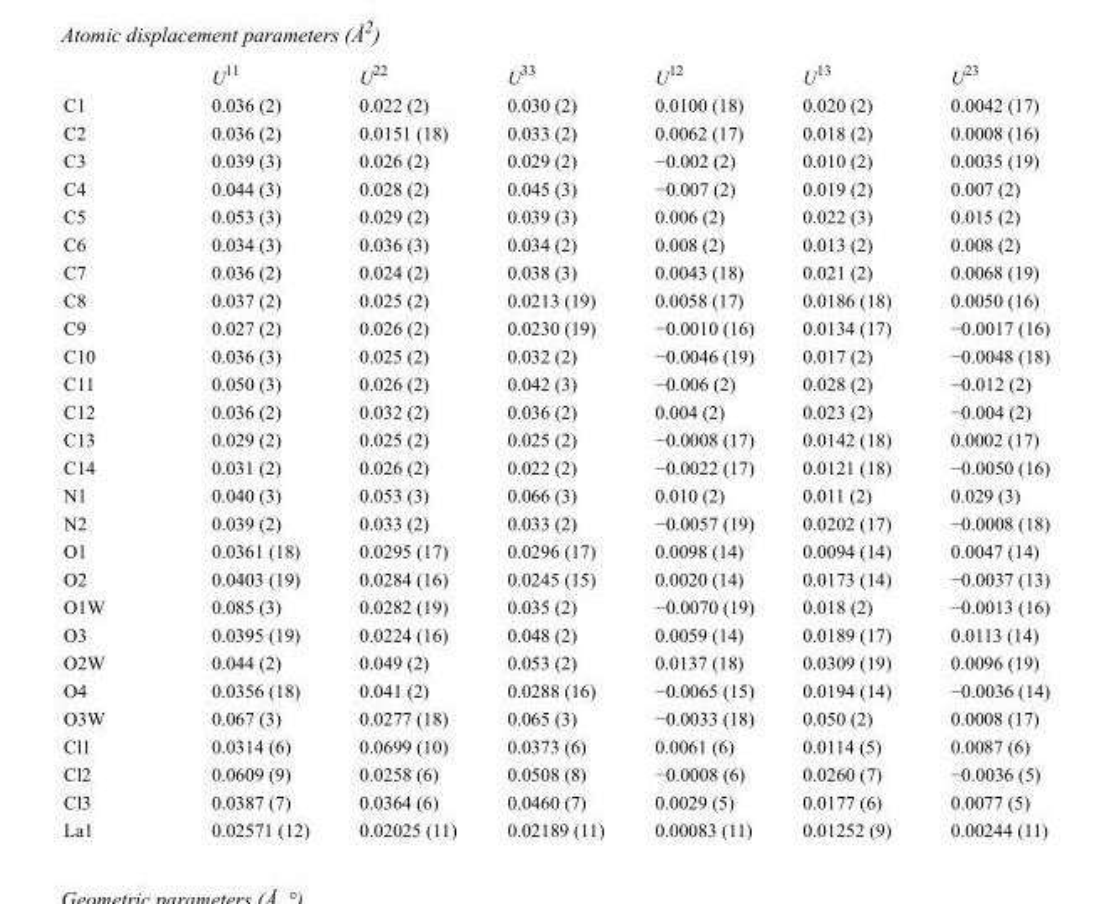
<table><thead><tr><td></td><td>U<sup>11</sup></td><td>U<sup>22</sup></td><td>U<sup>33</sup></td><td>U<sup>12</sup></td><td>U<sup>13</sup></td><td>U<sup>23</sup></td></tr></thead><tbody><tr><td>C1</td><td>0.036 (2)</td><td>0.022 (2)</td><td>0.030 (2)</td><td>0.0100 (18)</td><td>0.020 (2)</td><td>0.0042 (17)</td></tr><tr><td>C2</td><td>0.036 (2)</td><td>0.0151 (18)</td><td>0.033 (2)</td><td>0.0062 (17)</td><td>0.018 (2)</td><td>0.0008 (16)</td></tr><tr><td>C3</td><td>0.039 (3)</td><td>0.026 (2)</td><td>0.029 (2)</td><td>−0.002 (2)</td><td>0.010 (2)</td><td>0.0035 (19)</td></tr><tr><td>C4</td><td>0.044 (3)</td><td>0.028 (2)</td><td>0.045 (3)</td><td>−0.007 (2)</td><td>0.019 (2)</td><td>0.007 (2)</td></tr><tr><td>C5</td><td>0.053 (3)</td><td>0.029 (2)</td><td>0.039 (3)</td><td>0.006 (2)</td><td>0.022 (3)</td><td>0.015 (2)</td></tr><tr><td>C6</td><td>0.034 (3)</td><td>0.036 (3)</td><td>0.034 (2)</td><td>0.008 (2)</td><td>0.013 (2)</td><td>0.008 (2)</td></tr><tr><td>C7</td><td>0.036 (2)</td><td>0.024 (2)</td><td>0.038 (3)</td><td>0.0043 (18)</td><td>0.021 (2)</td><td>0.0068 (19)</td></tr><tr><td>C8</td><td>0.037 (2)</td><td>0.025 (2)</td><td>0.0213 (19)</td><td>0.0058 (17)</td><td>0.0186 (18)</td><td>0.0050 (16)</td></tr><tr><td>C9</td><td>0.027 (2)</td><td>0.026 (2)</td><td>0.0230 (19)</td><td>−0.0010 (16)</td><td>0.0134 (17)</td><td>−0.0017 (16)</td></tr><tr><td>C10</td><td>0.036 (3)</td><td>0.025 (2)</td><td>0.032 (2)</td><td>−0.0046 (19)</td><td>0.017 (2)</td><td>−0.0048 (18)</td></tr><tr><td>C11</td><td>0.050 (3)</td><td>0.026 (2)</td><td>0.042 (3)</td><td>−0.006 (2)</td><td>0.028 (2)</td><td>−0.012 (2)</td></tr><tr><td>C12</td><td>0.036 (2)</td><td>0.032 (2)</td><td>0.036 (2)</td><td>0.004 (2)</td><td>0.023 (2)</td><td>−0.004 (2)</td></tr><tr><td>C13</td><td>0.029 (2)</td><td>0.025 (2)</td><td>0.025 (2)</td><td>−0.0008 (17)</td><td>0.0142 (18)</td><td>0.0002 (17)</td></tr><tr><td>C14</td><td>0.031 (2)</td><td>0.026 (2)</td><td>0.022 (2)</td><td>−0.0022 (17)</td><td>0.0121 (18)</td><td>−0.0050 (16)</td></tr><tr><td>N1</td><td>0.040 (3)</td><td>0.053 (3)</td><td>0.066 (3)</td><td>0.010 (2)</td><td>0.011 (2)</td><td>0.029 (3)</td></tr><tr><td>N2</td><td>0.039 (2)</td><td>0.033 (2)</td><td>0.033 (2)</td><td>−0.0057 (19)</td><td>0.0202 (17)</td><td>−0.0008 (18)</td></tr><tr><td>O1</td><td>0.0361 (18)</td><td>0.0295 (17)</td><td>0.0296 (17)</td><td>0.0098 (14)</td><td>0.0094 (14)</td><td>0.0047 (14)</td></tr><tr><td>O2</td><td>0.0403 (19)</td><td>0.0284 (16)</td><td>0.0245 (15)</td><td>0.0020 (14)</td><td>0.0173 (14)</td><td>−0.0037 (13)</td></tr><tr><td>O1W</td><td>0.085 (3)</td><td>0.0282 (19)</td><td>0.035 (2)</td><td>−0.0070 (19)</td><td>0.018 (2)</td><td>−0.0013 (16)</td></tr><tr><td>O3</td><td>0.0395 (19)</td><td>0.0224 (16)</td><td>0.048 (2)</td><td>0.0059 (14)</td><td>0.0189 (17)</td><td>0.0113 (14)</td></tr><tr><td>O2W</td><td>0.044 (2)</td><td>0.049 (2)</td><td>0.053 (2)</td><td>0.0137 (18)</td><td>0.0309 (19)</td><td>0.0096 (19)</td></tr><tr><td>O4</td><td>0.0356 (18)</td><td>0.041 (2)</td><td>0.0288 (16)</td><td>−0.0065 (15)</td><td>0.0194 (14)</td><td>−0.0036 (14)</td></tr><tr><td>O3W</td><td>0.067 (3)</td><td>0.0277 (18)</td><td>0.065 (3)</td><td>−0.0033 (18)</td><td>0.050 (2)</td><td>0.0008 (17)</td></tr><tr><td>Cl1</td><td>0.0314 (6)</td><td>0.0699 (10)</td><td>0.0373 (6)</td><td>0.0061 (6)</td><td>0.0114 (5)</td><td>0.0087 (6)</td></tr><tr><td>Cl2</td><td>0.0609 (9)</td><td>0.0258 (6)</td><td>0.0508 (8)</td><td>−0.0008 (6)</td><td>0.0260 (7)</td><td>−0.0036 (5)</td></tr><tr><td>Cl3</td><td>0.0387 (7)</td><td>0.0364 (6)</td><td>0.0460 (7)</td><td>0.0029 (5)</td><td>0.0177 (6)</td><td>0.0077 (5)</td></tr><tr><td>La1</td><td>0.02571 (12)</td><td>0.02025 (11)</td><td>0.02189 (11)</td><td>0.00083 (11)</td><td>0.01252 (9)</td><td>0.00244 (11)</td></tr></tbody></table>